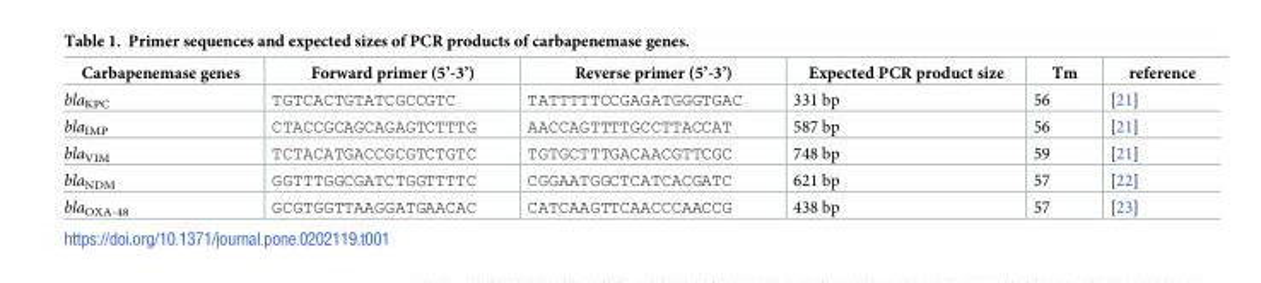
<table><thead><tr><td>Carbapenemase genes</td><td>Forward primer (5’-3’)</td><td>Reverse primer (5’-3’)</td><td>Expected PCR product size</td><td>Tm</td><td>reference</td></tr></thead><tbody><tr><td>bla<sub>KPC</sub></td><td>TGTCACTGTATCGCCGTC</td><td>TATTTTTCCGAGATGGGTGAC</td><td>331 bp</td><td>56</td><td>[21]</td></tr><tr><td>bla<sub>IMP</sub></td><td>CTACCGCAGCAGAGTCTTTG</td><td>AACCAGTTTTGCCTTACCAT</td><td>587 bp</td><td>56</td><td>[21]</td></tr><tr><td>bla<sub>VIM</sub></td><td>TCTACATGACCGCGTCTGTC</td><td>TGTGCTTTGACAACGTTCGC</td><td>748 bp</td><td>59</td><td>[21]</td></tr><tr><td>bla<sub>NDM</sub></td><td>GGTTTGGCGATCTGGTTTTC</td><td>CGGAATGGCTCATCACGATC</td><td>621 bp</td><td>57</td><td>[22]</td></tr><tr><td>bla<sub>OXA-48</sub></td><td>GCGTGGTTAAGGATGAACAC</td><td>CATCAAGTTCAACCCAACCG</td><td>438 bp</td><td>57</td><td>[23]</td></tr></tbody></table>